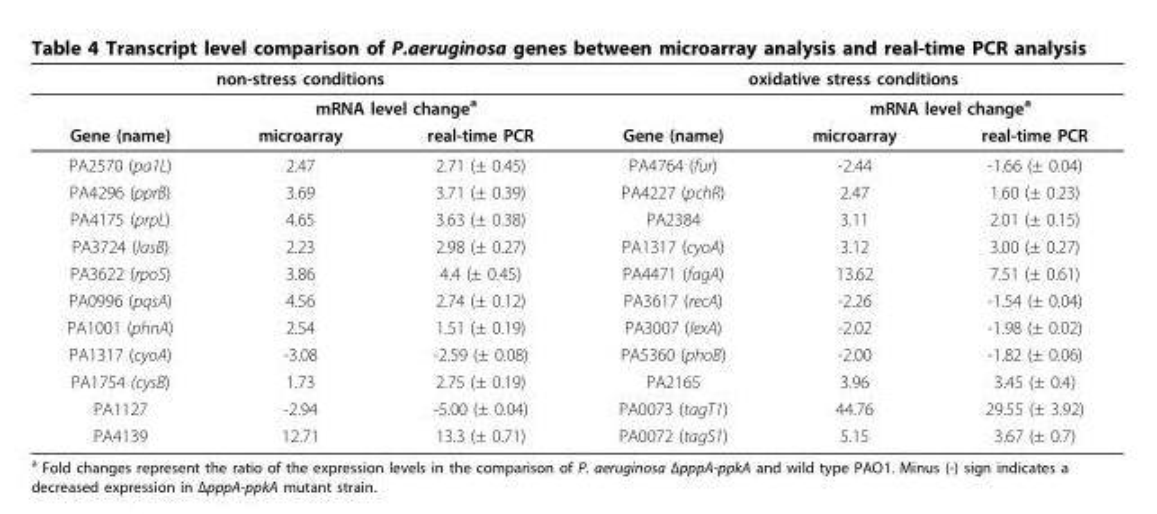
<table><thead><tr><td colspan="3">non-stress conditions</td><td colspan="3">oxidative stress conditions</td></tr><tr><td rowspan="2">Gene (name)</td><td colspan="2">mRNA level change<sup>a</sup></td><td rowspan="2">Gene (name)</td><td colspan="2">mRNA level change<sup>a</sup></td></tr><tr><td>microarray</td><td>real-time PCR</td><td>microarray</td><td>real-time PCR</td></tr></thead><tbody><tr><td>PA2570 (pa1L)</td><td>2.47</td><td>2.71 (± 0.45)</td><td>PA4764 (fur)</td><td>-2.44</td><td>-1.66 (± 0.04)</td></tr><tr><td>PA4296 (pprB)</td><td>3.69</td><td>3.71 (± 0.39)</td><td>PA4227 (pchR)</td><td>2.47</td><td>1.60 (± 0.23)</td></tr><tr><td>PA4175 (prpL)</td><td>4.65</td><td>3.63 (± 0.38)</td><td>PA2384</td><td>3.11</td><td>2.01 (± 0.15)</td></tr><tr><td>PA3724 (lasB)</td><td>2.23</td><td>2.98 (± 0.27)</td><td>PA1317 (cyoA)</td><td>3.12</td><td>3.00 (± 0.27)</td></tr><tr><td>PA3622 (rpoS)</td><td>3.86</td><td>4.4 (± 0.45)</td><td>PA4471 (fagA)</td><td>13.62</td><td>7.51 (± 0.61)</td></tr><tr><td>PA0996 (pqsA)</td><td>4.56</td><td>2.74 (± 0.12)</td><td>PA3617 (recA)</td><td>-2.26</td><td>-1.54 (± 0.04)</td></tr><tr><td>PA1001 (phnA)</td><td>2.54</td><td>1.51 (± 0.19)</td><td>PA3007 (lexA)</td><td>-2.02</td><td>-1.98 (± 0.02)</td></tr><tr><td>PA1317 (cyoA)</td><td>-3.08</td><td>-2.59 (± 0.08)</td><td>PA5360 (phoB)</td><td>-2.00</td><td>-1.82 (± 0.06)</td></tr><tr><td>PA1754 (cysB)</td><td>1.73</td><td>2.75 (± 0.19)</td><td>PA2165</td><td>3.96</td><td>3.45 (± 0.4)</td></tr><tr><td>PA1127</td><td>-2.94</td><td>-5.00 (± 0.04)</td><td>PA0073 (tagT1)</td><td>44.76</td><td>29.55 (± 3.92)</td></tr><tr><td>PA4139</td><td>12.71</td><td>13.3 (± 0.71)</td><td>PA0072 (tagS1)</td><td>5.15</td><td>3.67 (± 0.7)</td></tr></tbody></table>